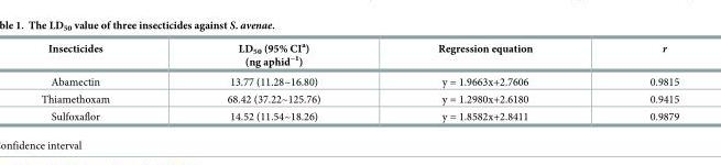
<table><thead><tr><td>Insecticides</td><td>LD<sub>50</sub> (95% CI<sup>a</sup>) (ng aphid<sup>−1</sup>)</td><td>Regression equation</td><td>r</td></tr></thead><tbody><tr><td>Abamectin</td><td>13.77 (11.28~16.80)</td><td>y = 1.9663x+2.7606</td><td>0.9815</td></tr><tr><td>Thiamethoxam</td><td>68.42 (37.22~125.76)</td><td>y = 1.2980x+2.6180</td><td>0.9415</td></tr><tr><td>Sulfoxaflor</td><td>14.52 (11.54~18.26)</td><td>y = 1.8582x+2.8411</td><td>0.9879</td></tr></tbody></table>